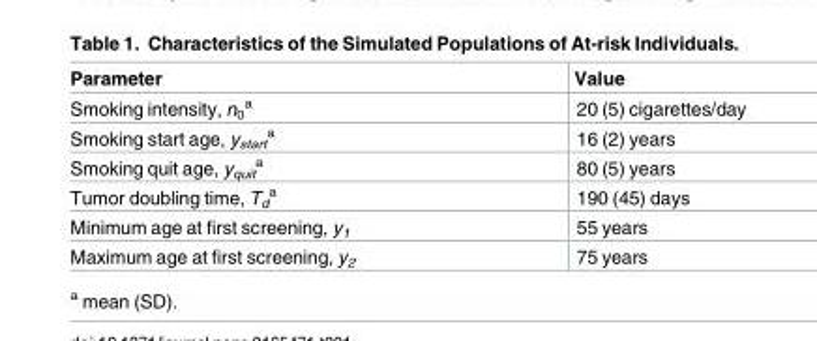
<table><thead><tr><td>Parameter</td><td>Value</td></tr></thead><tbody><tr><td>Smoking intensity, n<sub>0</sub> <sup>a</sup></td><td>20 (5) cigarettes/day</td></tr><tr><td>Smoking start age, y<sub>start</sub> <sup>a</sup></td><td>16 (2) years</td></tr><tr><td>Smoking quit age, y<sub>quit</sub> <sup>a</sup></td><td>80 (5) years</td></tr><tr><td>Tumor doubling time, T<sub>d</sub> <sup>a</sup></td><td>190 (45) days</td></tr><tr><td>Minimum age at first screening, y<sub>1</sub></td><td>55 years</td></tr><tr><td>Maximum age at first screening, y<sub>2</sub></td><td>75 years</td></tr></tbody></table>